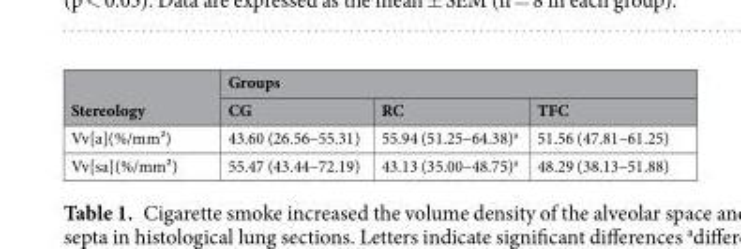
<table><thead><tr><td rowspan="2">Stereology</td><td colspan="3">Groups</td></tr><tr><td>CG</td><td>RC</td><td>TFC</td></tr></thead><tbody><tr><td>Vv[a](%/mm²)</td><td>43.60 (26.56–55.31)</td><td>55.94 (51.25–64.38)<sup>a</sup></td><td>51.56 (47.81–61.25)</td></tr><tr><td>Vv[sa](%/mm²)</td><td>55.47 (43.44–72.19)</td><td>43.13 (35.00–48.75)<sup>a</sup></td><td>48.29 (38.13–51.88)</td></tr></tbody></table>